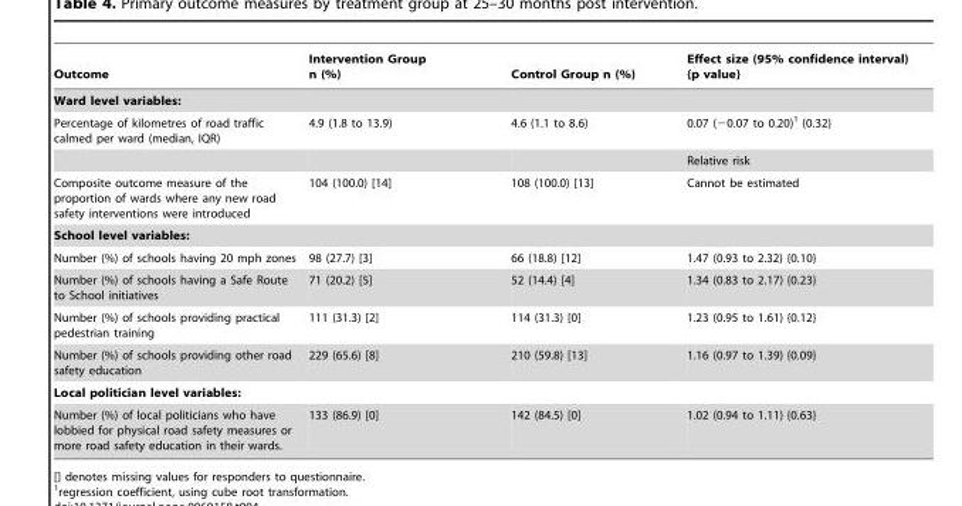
<table><thead><tr><td>Outcome</td><td>Intervention Group n (%)</td><td>Control Group n (%)</td><td>Effect size (95% confidence interval) {p value}</td></tr></thead><tbody><tr><td colspan="4">Ward level variables:</td></tr><tr><td rowspan="2">Percentage of kilometres of road traffic calmed per ward (median, IQR)</td><td>4.9 (1.8 to 13.9)</td><td>4.6 (1.1 to 8.6)</td><td>0.07 (−0.07 to 0.20)<sup>1</sup> {0.32}</td></tr><tr><td></td><td></td><td>Relative risk</td></tr><tr><td>Composite outcome measure of the proportion of wards where any new road safety interventions were introduced</td><td>104 (100.0) [14]</td><td>108 (100.0) [13]</td><td>Cannot be estimated</td></tr><tr><td colspan="4">School level variables:</td></tr><tr><td>Number (%) of schools having 20 mph zones</td><td>98 (27.7) [3]</td><td>66 (18.8) [12]</td><td>1.47 (0.93 to 2.32) {0.10}</td></tr><tr><td>Number (%) of schools having a Safe Route to School initiatives</td><td>71 (20.2) [5]</td><td>52 (14.4) [4]</td><td>1.34 (0.83 to 2.17) {0.23}</td></tr><tr><td>Number (%) of schools providing practical pedestrian training</td><td>111 (31.3) [2]</td><td>114 (31.3) [0]</td><td>1.23 (0.95 to 1.61) {0.12}</td></tr><tr><td>Number (%) of schools providing other road safety education</td><td>229 (65.6) [8]</td><td>210 (59.8) [13]</td><td>1.16 (0.97 to 1.39) {0.09}</td></tr><tr><td colspan="4">Local politician level variables:</td></tr><tr><td>Number (%) of local politicians who have lobbied for physical road safety measures or more road safety education in their wards.</td><td>133 (86.9) [0]</td><td>142 (84.5) [0]</td><td>1.02 (0.94 to 1.11) {0.63}</td></tr></tbody></table>